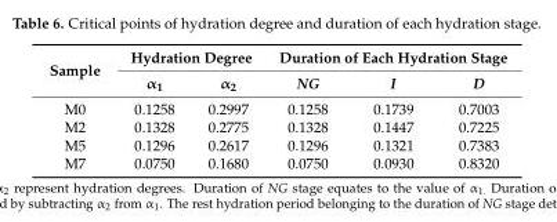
<table><thead><tr><td rowspan="2">Sample</td><td colspan="2">Hydration Degree</td><td colspan="3">Duration of Each Hydration Stage</td></tr><tr><td>α<sub>1</sub></td><td>α<sub>2</sub></td><td>NG</td><td>I</td><td>D</td></tr></thead><tbody><tr><td>M0</td><td>0.1258</td><td>0.2997</td><td>0.1258</td><td>0.1739</td><td>0.7003</td></tr><tr><td>M2</td><td>0.1328</td><td>0.2775</td><td>0.1328</td><td>0.1447</td><td>0.7225</td></tr><tr><td>M5</td><td>0.1296</td><td>0.2617</td><td>0.1296</td><td>0.1321</td><td>0.7383</td></tr><tr><td>M7</td><td>0.0750</td><td>0.1680</td><td>0.0750</td><td>0.0930</td><td>0.8320</td></tr></tbody></table>